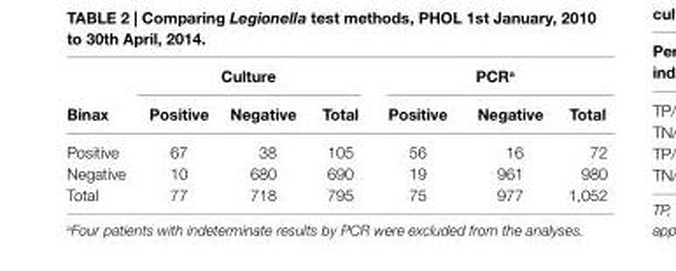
<table><thead><tr><td rowspan="2">Binax</td><td colspan="3">culture</td><td colspan="3">Pcr<sup>a</sup></td></tr><tr><td>Positive</td><td>negative</td><td>Total</td><td>Positive</td><td>negative</td><td>Total</td></tr></thead><tbody><tr><td>Positive</td><td>67</td><td>38</td><td>105</td><td>56</td><td>16</td><td>72</td></tr><tr><td>Negative</td><td>10</td><td>680</td><td>690</td><td>19</td><td>961</td><td>980</td></tr><tr><td>Total</td><td>77</td><td>718</td><td>795</td><td>75</td><td>977</td><td>1,052</td></tr></tbody></table>